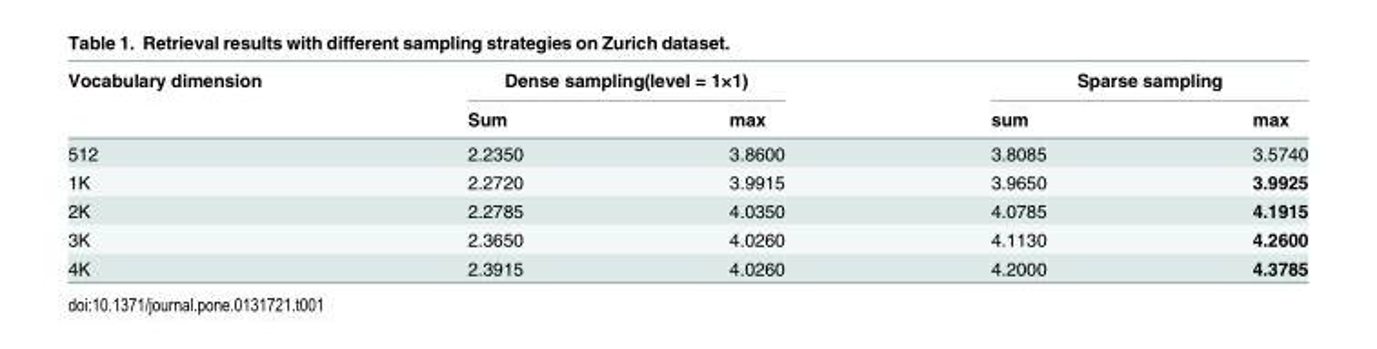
<table><thead><tr><td rowspan="2">Vocabulary dimension</td><td colspan="2">Dense sampling(level = 1×1)</td><td colspan="2">Sparse sampling</td></tr><tr><td>Sum</td><td>max</td><td>sum</td><td>max</td></tr></thead><tbody><tr><td>512</td><td>2.2350</td><td>3.8600</td><td>3.8085</td><td>3.5740</td></tr><tr><td>1K</td><td>2.2720</td><td>3.9915</td><td>3.9650</td><td>3.9925</td></tr><tr><td>2K</td><td>2.2785</td><td>4.0350</td><td>4.0785</td><td>4.1915</td></tr><tr><td>3K</td><td>2.3650</td><td>4.0260</td><td>4.1130</td><td>4.2600</td></tr><tr><td>4K</td><td>2.3915</td><td>4.0260</td><td>4.2000</td><td>4.3785</td></tr></tbody></table>